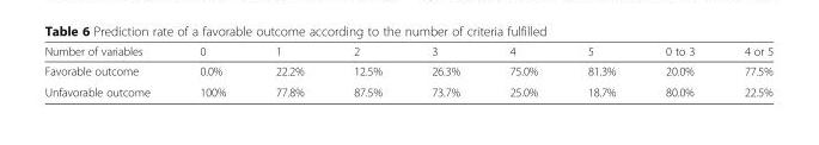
<table><thead><tr><td>Number of variables</td><td>0</td><td>1</td><td>2</td><td>3</td><td>4</td><td>5</td><td>0 to 3</td><td>4 or 5</td></tr></thead><tbody><tr><td>Favorable outcome</td><td>0.0%</td><td>22.2%</td><td>12.5%</td><td>26.3%</td><td>75.0%</td><td>81.3%</td><td>20.0%</td><td>77.5%</td></tr><tr><td>Unfavorable outcome</td><td>100%</td><td>77.8%</td><td>87.5%</td><td>73.7%</td><td>25.0%</td><td>18.7%</td><td>80.0%</td><td>22.5%</td></tr></tbody></table>